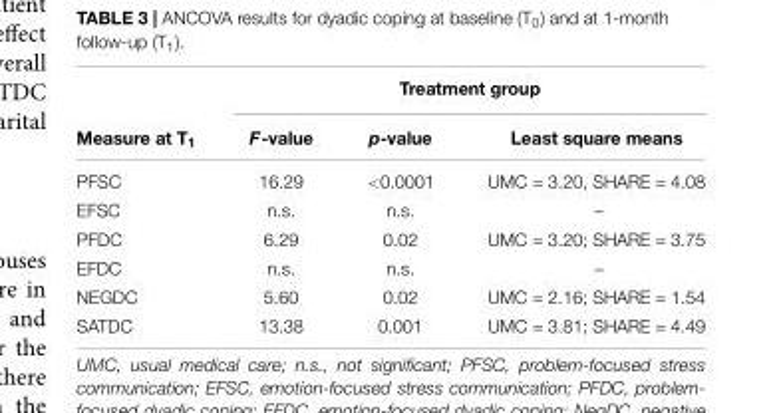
<table><thead><tr><td rowspan="2">Measure at T<sub>1</sub></td><td colspan="3">Treatment group</td></tr><tr><td>F-value</td><td>p-value</td><td>Least square means</td></tr></thead><tbody><tr><td>PFSC</td><td>16.29</td><td>&lt;0.0001</td><td>UMC = 3.20, SHARE = 4.08</td></tr><tr><td>EFSC</td><td>n.s.</td><td>n.s.</td><td>–</td></tr><tr><td>PFDC</td><td>6.29</td><td>0.02</td><td>UMC = 3.20; SHARE = 3.75</td></tr><tr><td>EFDC</td><td>n.s.</td><td>n.s.</td><td>–</td></tr><tr><td>NEGDC</td><td>5.60</td><td>0.02</td><td>UMC = 2.16; SHARE = 1.54</td></tr><tr><td>SATDC</td><td>13.38</td><td>0.001</td><td>UMC = 3.81; SHARE = 4.49</td></tr></tbody></table>